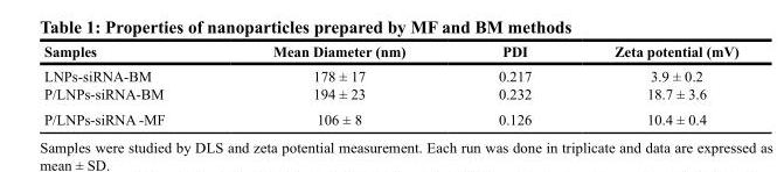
<table><thead><tr><td>Samples</td><td>Mean Diameter (nm)</td><td>PDI</td><td>Zeta potential (mV)</td></tr></thead><tbody><tr><td>LNPs-siRNA-BM P/LNPs-siRNA-BM</td><td>178 ± 17 194 ± 23</td><td>0.217 0.232</td><td>3.9 ± 0.2 18.7 ± 3.6</td></tr><tr><td>P/LNPs-siRNA -MF</td><td>106 ± 8</td><td>0.126</td><td>10.4 ± 0.4</td></tr></tbody></table>